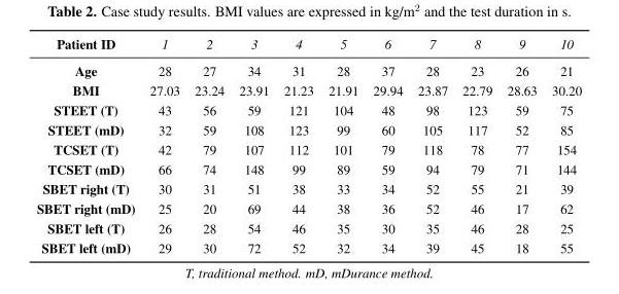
<table><thead><tr><td>Patient ID</td><td>1</td><td>2</td><td>3</td><td>4</td><td>5</td><td>6</td><td>7</td><td>8</td><td>9</td><td>10</td></tr></thead><tbody><tr><td>Age</td><td>28</td><td>27</td><td>34</td><td>31</td><td>28</td><td>37</td><td>28</td><td>23</td><td>26</td><td>21</td></tr><tr><td>BMI</td><td>27.03</td><td>23.24</td><td>23.91</td><td>21.23</td><td>21.91</td><td>29.94</td><td>23.87</td><td>22.79</td><td>28.63</td><td>30.20</td></tr><tr><td>STEET (T)</td><td>43</td><td>56</td><td>59</td><td>121</td><td>104</td><td>48</td><td>98</td><td>123</td><td>59</td><td>75</td></tr><tr><td>STEET (mD)</td><td>32</td><td>59</td><td>108</td><td>123</td><td>99</td><td>60</td><td>105</td><td>117</td><td>52</td><td>85</td></tr><tr><td>TCSET (T)</td><td>42</td><td>79</td><td>107</td><td>112</td><td>101</td><td>79</td><td>118</td><td>78</td><td>77</td><td>154</td></tr><tr><td>TCSET (mD)</td><td>66</td><td>74</td><td>148</td><td>99</td><td>89</td><td>59</td><td>94</td><td>79</td><td>71</td><td>144</td></tr><tr><td>SBET right (T)</td><td>30</td><td>31</td><td>51</td><td>38</td><td>33</td><td>34</td><td>52</td><td>55</td><td>21</td><td>39</td></tr><tr><td>SBET right (mD)</td><td>25</td><td>20</td><td>69</td><td>44</td><td>38</td><td>36</td><td>52</td><td>46</td><td>17</td><td>62</td></tr><tr><td>SBET left (T)</td><td>26</td><td>28</td><td>54</td><td>46</td><td>35</td><td>30</td><td>35</td><td>46</td><td>28</td><td>25</td></tr><tr><td>SBET left (mD)</td><td>29</td><td>30</td><td>72</td><td>52</td><td>32</td><td>34</td><td>39</td><td>45</td><td>18</td><td>55</td></tr></tbody></table>